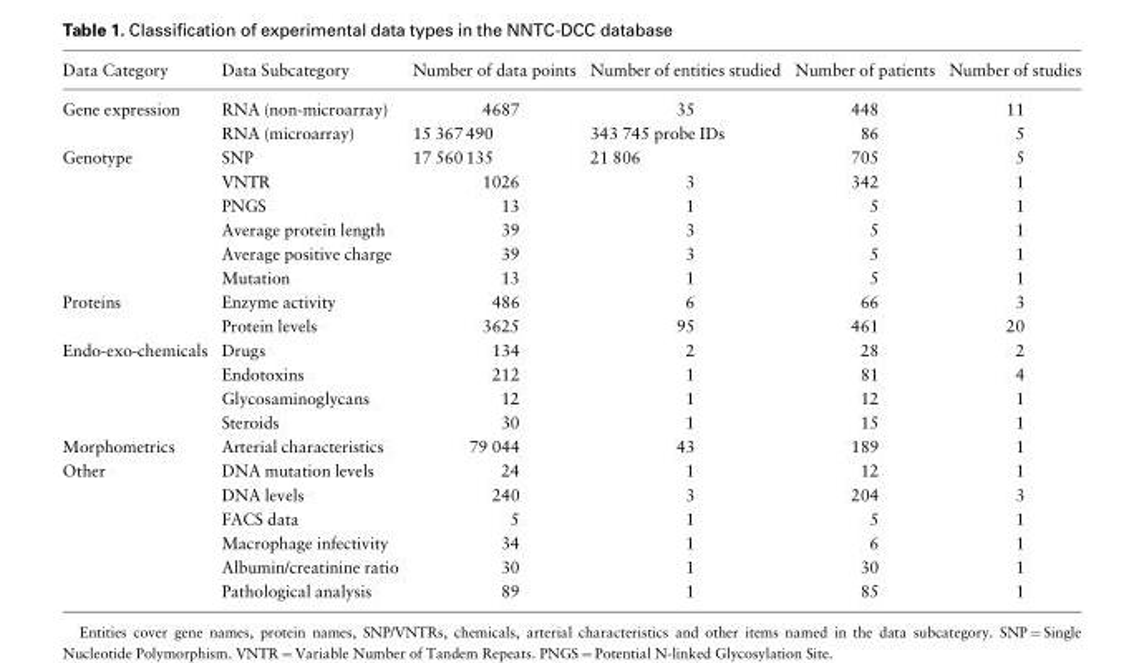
<table><thead><tr><td>Data Category</td><td>Data Subcategory</td><td>Number of data points</td><td>Number of entities studied</td><td>Number of patients</td><td>Number of studies</td></tr></thead><tbody><tr><td rowspan="2">Gene expression</td><td>RNA (non-microarray)</td><td>4687</td><td>35</td><td>448</td><td>11</td></tr><tr><td>RNA (microarray)</td><td>15 367 490</td><td>343 745 probe IDs</td><td>86</td><td>5</td></tr><tr><td rowspan="6">Genotype</td><td>SNP</td><td>17 560 135</td><td>21 806</td><td>705</td><td>5</td></tr><tr><td>VNTR</td><td>1026</td><td>3</td><td>342</td><td>1</td></tr><tr><td>PNGS</td><td>13</td><td>1</td><td>5</td><td>1</td></tr><tr><td>Average protein length</td><td>39</td><td>3</td><td>5</td><td>1</td></tr><tr><td>Average positive charge</td><td>39</td><td>3</td><td>5</td><td>1</td></tr><tr><td>Mutation</td><td>13</td><td>1</td><td>5</td><td>1</td></tr><tr><td rowspan="2">Proteins</td><td>Enzyme activity</td><td>486</td><td>6</td><td>66</td><td>3</td></tr><tr><td>Protein levels</td><td>3625</td><td>95</td><td>461</td><td>20</td></tr><tr><td rowspan="4">Endo-exo-chemicals</td><td>Drugs</td><td>134</td><td>2</td><td>28</td><td>2</td></tr><tr><td>Endotoxins</td><td>212</td><td>1</td><td>81</td><td>4</td></tr><tr><td>Glycosaminoglycans</td><td>12</td><td>1</td><td>12</td><td>1</td></tr><tr><td>Steroids</td><td>30</td><td>1</td><td>15</td><td>1</td></tr><tr><td>Morphometrics</td><td>Arterial characteristics</td><td>79 044</td><td>43</td><td>189</td><td>1</td></tr><tr><td rowspan="6">Other</td><td>DNA mutation levels</td><td>24</td><td>1</td><td>12</td><td>1</td></tr><tr><td>DNA levels</td><td>240</td><td>3</td><td>204</td><td>3</td></tr><tr><td>FACS data</td><td>5</td><td>1</td><td>5</td><td>1</td></tr><tr><td>Macrophage infectivity</td><td>34</td><td>1</td><td>6</td><td>1</td></tr><tr><td>Albumin/creatinine ratio</td><td>30</td><td>1</td><td>30</td><td>1</td></tr><tr><td>Pathological analysis</td><td>89</td><td>1</td><td>85</td><td>1</td></tr></tbody></table>